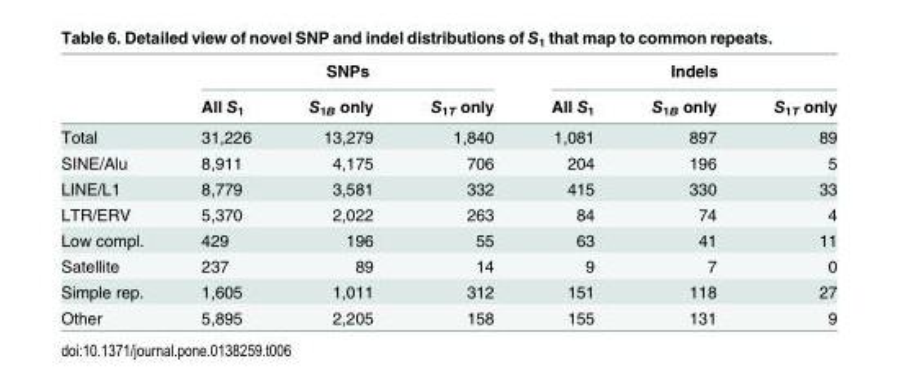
<table><thead><tr><td rowspan="2"></td><td colspan="3">SNPs</td><td colspan="3">Indels</td></tr><tr><td>All S<sub>1</sub></td><td>S<sub>1B</sub> only</td><td>S<sub>1T</sub> only</td><td>All S<sub>1</sub></td><td>S<sub>1B</sub> only</td><td>S<sub>1T</sub> only</td></tr></thead><tbody><tr><td>Total</td><td>31,226</td><td>13,279</td><td>1,840</td><td>1,081</td><td>897</td><td>89</td></tr><tr><td>SINE/Alu</td><td>8,911</td><td>4,175</td><td>706</td><td>204</td><td>196</td><td>5</td></tr><tr><td>LINE/L1</td><td>8,779</td><td>3,581</td><td>332</td><td>415</td><td>330</td><td>33</td></tr><tr><td>LTR/ERV</td><td>5,370</td><td>2,022</td><td>263</td><td>84</td><td>74</td><td>4</td></tr><tr><td>Low compl.</td><td>429</td><td>196</td><td>55</td><td>63</td><td>41</td><td>11</td></tr><tr><td>Satellite</td><td>237</td><td>89</td><td>14</td><td>9</td><td>7</td><td>0</td></tr><tr><td>Simple rep.</td><td>1,605</td><td>1,011</td><td>312</td><td>151</td><td>118</td><td>27</td></tr><tr><td>Other</td><td>5,895</td><td>2,205</td><td>158</td><td>155</td><td>131</td><td>9</td></tr></tbody></table>